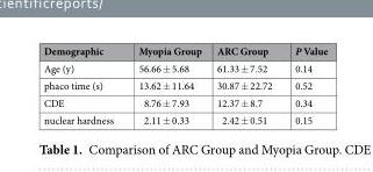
<table><thead><tr><td>Demographic</td><td>Myopia Group</td><td>ARC Group</td><td>P Value</td></tr></thead><tbody><tr><td>Age (y)</td><td>56.66 ± 5.68</td><td>61.33 ± 7.52</td><td>0.14</td></tr><tr><td>phaco time (s)</td><td>13.62 ± 11.64</td><td>30.87 ± 22.72</td><td>0.52</td></tr><tr><td>CDE</td><td>8.76 ± 7.93</td><td>12.37 ± 8.7</td><td>0.34</td></tr><tr><td>nuclear hardness</td><td>2.11 ± 0.33</td><td>2.42 ± 0.51</td><td>0.15</td></tr></tbody></table>